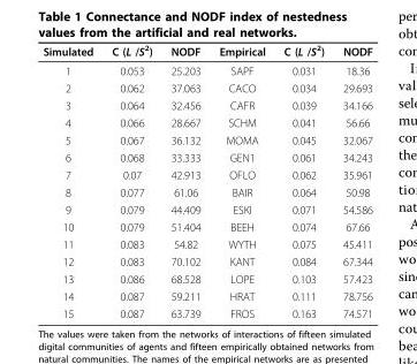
<table><thead><tr><td>Simulated</td><td>C (L /S<sup>2</sup>)</td><td>NODF</td><td>Empirical</td><td>C (L /S<sup>2</sup>)</td><td>NODF</td></tr></thead><tbody><tr><td>1</td><td>0.053</td><td>25.203</td><td>SAPF</td><td>0.031</td><td>18.36</td></tr><tr><td>2</td><td>0.062</td><td>37.063</td><td>CACO</td><td>0.034</td><td>29.693</td></tr><tr><td>3</td><td>0.064</td><td>32.456</td><td>CAFR</td><td>0.039</td><td>34.166</td></tr><tr><td>4</td><td>0.066</td><td>28.667</td><td>SCHM</td><td>0.041</td><td>56.66</td></tr><tr><td>5</td><td>0.067</td><td>36.132</td><td>MOMA</td><td>0.045</td><td>32.067</td></tr><tr><td>6</td><td>0.068</td><td>33.333</td><td>GEN1</td><td>0.061</td><td>34.243</td></tr><tr><td>7</td><td>0.07</td><td>42.913</td><td>OFLO</td><td>0.062</td><td>35.961</td></tr><tr><td>8</td><td>0.077</td><td>61.06</td><td>BAIR</td><td>0.064</td><td>50.98</td></tr><tr><td>9</td><td>0.079</td><td>44.409</td><td>ESKI</td><td>0.071</td><td>54.586</td></tr><tr><td>10</td><td>0.079</td><td>51.404</td><td>BEEH</td><td>0.074</td><td>67.66</td></tr><tr><td>11</td><td>0.083</td><td>54.82</td><td>WYTH</td><td>0.075</td><td>45.411</td></tr><tr><td>12</td><td>0.083</td><td>70.102</td><td>KANT</td><td>0.084</td><td>67.344</td></tr><tr><td>13</td><td>0.086</td><td>68.528</td><td>LOPE</td><td>0.103</td><td>57.423</td></tr><tr><td>14</td><td>0.087</td><td>59.211</td><td>HRAT</td><td>0.111</td><td>78.756</td></tr><tr><td>15</td><td>0.087</td><td>63.739</td><td>FROS</td><td>0.163</td><td>74.571</td></tr></tbody></table>